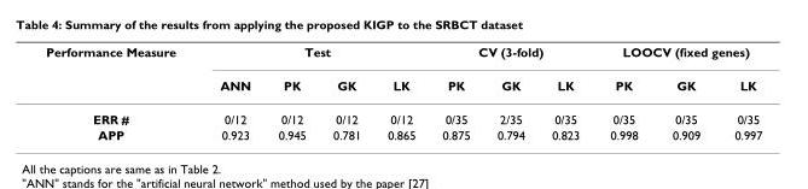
<table><thead><tr><td rowspan="2">Performance Measure</td><td colspan="4">Test</td><td colspan="3">CV (3-fold)</td><td colspan="3">LOOCV (fixed genes)</td></tr><tr><td>ANN</td><td>PK</td><td>GK</td><td>LK</td><td>PK</td><td>GK</td><td>LK</td><td>PK</td><td>GK</td><td>LK</td></tr></thead><tbody><tr><td>ERR #</td><td>0/12</td><td>0/12</td><td>0/12</td><td>0/12</td><td>0/35</td><td>2/35</td><td>0/35</td><td>0/35</td><td>0/35</td><td>0/35</td></tr><tr><td>APP</td><td>0.923</td><td>0.945</td><td>0.781</td><td>0.865</td><td>0.875</td><td>0.794</td><td>0.823</td><td>0.998</td><td>0.909</td><td>0.997</td></tr></tbody></table>